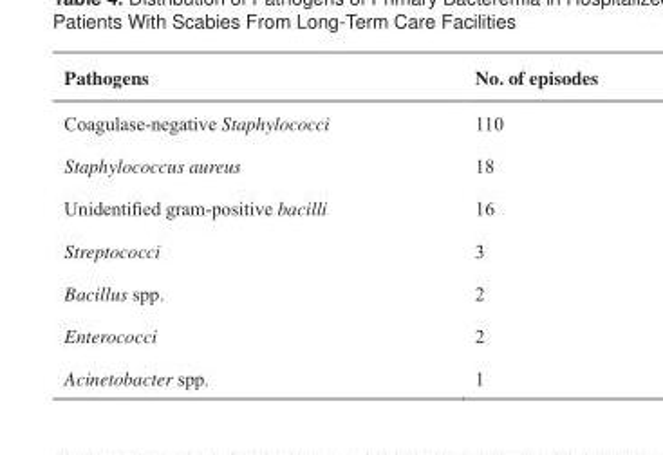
<table><thead><tr><td>Pathogens</td><td>No. of episodes</td></tr></thead><tbody><tr><td>Coagulase-negative Staphylococci</td><td>110</td></tr><tr><td>Staphylococcus aureus</td><td>18</td></tr><tr><td>Unidentifi ed gram-positive bacilli</td><td>16</td></tr><tr><td>Streptococci</td><td>3</td></tr><tr><td>Bacillus spp.</td><td>2</td></tr><tr><td>Enterococci</td><td>2</td></tr><tr><td>Acinetobacter spp.</td><td>1</td></tr></tbody></table>